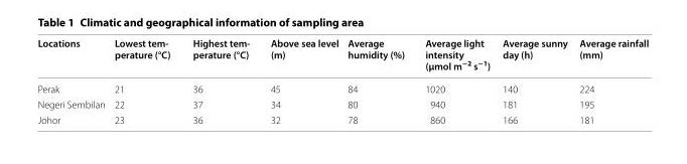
<table><thead><tr><td>Locations</td><td>Lowest tem- perature (°C)</td><td>Highest tem- perature (°C)</td><td>Above sea level (m)</td><td>Average humidity (%)</td><td>Average light intensity (µmol m<sup>−2</sup> s<sup>−1</sup>)</td><td>Average sunny day (h)</td><td>Average rainfall (mm)</td></tr></thead><tbody><tr><td>Perak</td><td>21</td><td>36</td><td>45</td><td>84</td><td>1020</td><td>140</td><td>224</td></tr><tr><td>Negeri Sembilan</td><td>22</td><td>37</td><td>34</td><td>80</td><td>940</td><td>181</td><td>195</td></tr><tr><td>Johor</td><td>23</td><td>36</td><td>32</td><td>78</td><td>860</td><td>166</td><td>181</td></tr></tbody></table>